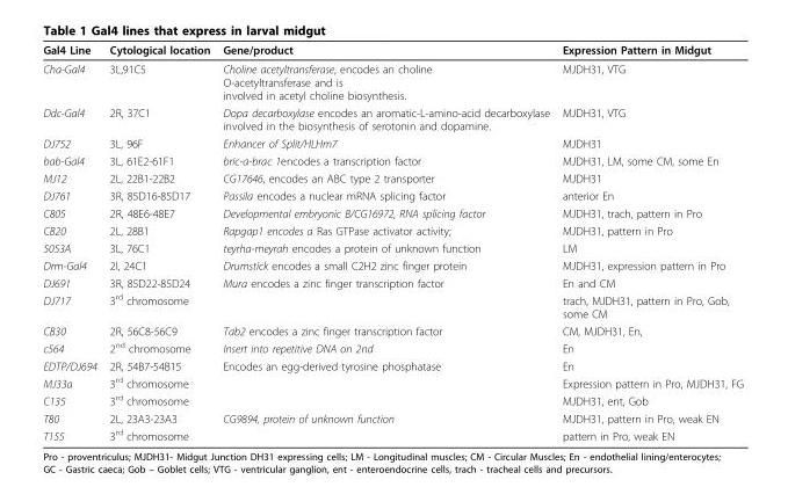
<table><thead><tr><td>Gal4 Line</td><td>Cytological location</td><td>Gene/product</td><td>Expression Pattern in Midgut</td></tr></thead><tbody><tr><td>Cha-Gal4</td><td>3L,91C5</td><td>Choline acetyltransferase, encodes an choline O-acetyltransferase and is involved in acetyl choline biosynthesis.</td><td>MJDH31, VTG</td></tr><tr><td>Ddc-Gal4</td><td>2R, 37C1</td><td>Dopa decarboxylase encodes an aromatic-L-amino-acid decarboxylase involved in the biosynthesis of serotonin and dopamine.</td><td>MJDH31, VTG</td></tr><tr><td>DJ752</td><td>3L, 96F</td><td>Enhancer of Split/HLHm7</td><td>MJDH31</td></tr><tr><td>bab-Gal4</td><td>3L, 61E2-61F1</td><td>bric-a-brac 1encodes a transcription factor</td><td>MJDH31, LM, some CM, some En</td></tr><tr><td>MJ12</td><td>2L, 22B1-22B2</td><td>CG17646, encodes an ABC type 2 transporter</td><td>MJDH31</td></tr><tr><td>DJ761</td><td>3R, 85D16-85D17</td><td>Passila encodes a nuclear mRNA splicing factor</td><td>anterior En</td></tr><tr><td>C805</td><td>2R, 48E6-48E7</td><td>Developmental embryonic B/CG16972, RNA splicing factor</td><td>MJDH31, trach, pattern in Pro</td></tr><tr><td>CB20</td><td>2L, 28B1</td><td>Rapgap1 encodes a Ras GTPase activator activity;</td><td>MJDH31, pattern in Pro</td></tr><tr><td>5053A</td><td>3L, 76C1</td><td>teyrha-meyrah encodes a protein of unknown function</td><td>LM</td></tr><tr><td>Drm-Gal4</td><td>2l, 24C1</td><td>Drumstick encodes a small C2H2 zinc finger protein</td><td>MJDH31, expression pattern in Pro</td></tr><tr><td>DJ691</td><td>3R, 85D22-85D24</td><td>Mura encodes a zinc finger transcription factor</td><td>En and CM</td></tr><tr><td>DJ717</td><td>3<sup>rd</sup> chromosome</td><td></td><td>trach, MJDH31, pattern in Pro, Gob, some CM</td></tr><tr><td>CB30</td><td>2R, 56C8-56C9</td><td>Tab2 encodes a zinc finger transcription factor</td><td>CM, MJDH31, En,</td></tr><tr><td>c564</td><td>2<sup>nd</sup> chromosome</td><td>Insert into repetitive DNA on 2nd</td><td>En</td></tr><tr><td>EDTP/DJ694</td><td>2R, 54B7-54B15</td><td>Encodes an egg-derived tyrosine phosphatase</td><td>En</td></tr><tr><td>MJ33a</td><td>3<sup>rd</sup> chromosome</td><td></td><td>Expression pattern in Pro, MJDH31, FG</td></tr><tr><td>C135</td><td>3<sup>rd</sup> chromosome</td><td></td><td>MJDH31, ent, Gob</td></tr><tr><td>T80</td><td>2L, 23A3-23A3</td><td>CG9894, protein of unknown function</td><td>MJDH31, pattern in Pro, weak EN</td></tr><tr><td>T155</td><td>3<sup>rd</sup> chromosome</td><td></td><td>pattern in Pro, weak EN</td></tr></tbody></table>